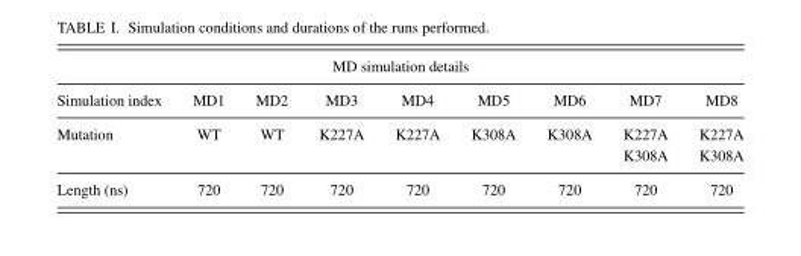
<table><thead><tr><td colspan="9">MD simulation details</td></tr><tr><td>Simulation index</td><td>MD1</td><td>MD2</td><td>MD3</td><td>MD4</td><td>MD5</td><td>MD6</td><td>MD7</td><td>MD8</td></tr></thead><tbody><tr><td rowspan="2">Mutation</td><td>WT</td><td>WT</td><td>K227A</td><td>K227A</td><td>K308A</td><td>K308A</td><td>K227A</td><td>K227A</td></tr><tr><td></td><td></td><td></td><td></td><td></td><td></td><td>K308A</td><td>K308A</td></tr><tr><td>Length (ns)</td><td>720</td><td>720</td><td>720</td><td>720</td><td>720</td><td>720</td><td>720</td><td>720</td></tr></tbody></table>